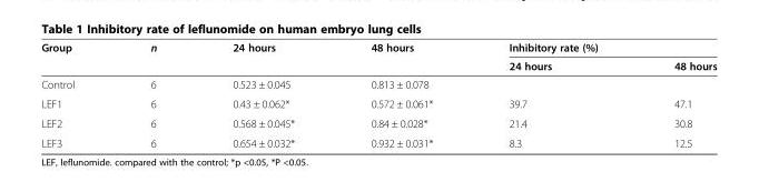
<table><thead><tr><td rowspan="2">Group</td><td rowspan="2">n</td><td rowspan="2">24 hours</td><td rowspan="2">48 hours</td><td rowspan="2">Inhibitory rate (%) 24 hours</td><td rowspan="2">48 hours</td></tr><tr></tr></thead><tbody><tr><td>Control</td><td>6</td><td>0.523 ± 0.045</td><td>0.813 ± 0.078</td><td></td><td></td></tr><tr><td>LEF1</td><td>6</td><td>0.43 ± 0.062*</td><td>0.572 ± 0.061*</td><td>39.7</td><td>47.1</td></tr><tr><td>LEF2</td><td>6</td><td>0.568 ± 0.045*</td><td>0.84 ± 0.028*</td><td>21.4</td><td>30.8</td></tr><tr><td>LEF3</td><td>6</td><td>0.654 ± 0.032*</td><td>0.932 ± 0.031*</td><td>8.3</td><td>12.5</td></tr></tbody></table>